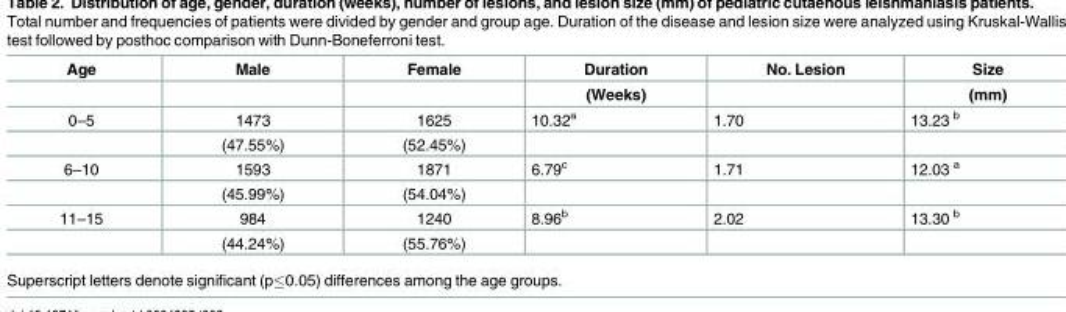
<table><thead><tr><td rowspan="2">Age</td><td rowspan="2">Male</td><td rowspan="2">Female</td><td rowspan="2">Duration (Weeks)</td><td rowspan="2">No. Lesion</td><td rowspan="2">Size (mm)</td></tr><tr></tr></thead><tbody><tr><td rowspan="2">0–5</td><td>1473</td><td>1625</td><td>10.32<sup>a</sup></td><td>1.70</td><td>13.23 <sup>b</sup></td></tr><tr><td>(47.55%)</td><td>(52.45%)</td><td></td><td></td><td></td></tr><tr><td rowspan="2">6–10</td><td>1593</td><td>1871</td><td>6.79<sup>c</sup></td><td>1.71</td><td>12.03 <sup>a</sup></td></tr><tr><td>(45.99%)</td><td>(54.04%)</td><td></td><td></td><td></td></tr><tr><td rowspan="2">11–15</td><td>984</td><td>1240</td><td>8.96<sup>b</sup></td><td>2.02</td><td>13.30 <sup>b</sup></td></tr><tr><td>(44.24%)</td><td>(55.76%)</td><td></td><td></td><td></td></tr></tbody></table>